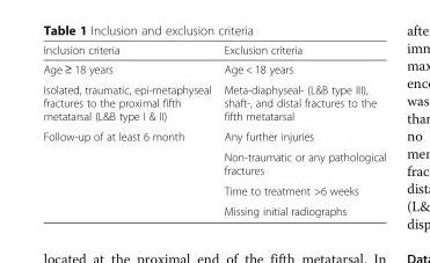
<table><thead><tr><td>Inclusion criteria</td><td>Exclusion criteria</td></tr></thead><tbody><tr><td>Age ≥ 18 years</td><td>Age &lt; 18 years</td></tr><tr><td>Isolated, traumatic, epi-metaphyseal fractures to the proximal fifth metatarsal (L&amp;B type I &amp; II)</td><td>Meta-diaphyseal- (L&amp;B type III), shaft-, and distal fractures to the fifth metatarsal</td></tr><tr><td rowspan="4">Follow-up of at least 6 month</td><td>Any further injuries</td></tr><tr><td>Non-traumatic or any pathological fractures</td></tr><tr><td>Time to treatment &gt;6 weeks</td></tr><tr><td>Missing initial radiographs</td></tr></tbody></table>